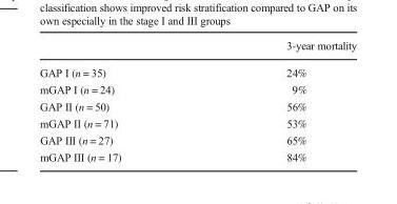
<table><thead><tr><td></td><td>3-year mortality</td></tr></thead><tbody><tr><td>GAP I (n = 35)</td><td>24%</td></tr><tr><td>mGAP I (n = 24)</td><td>9%</td></tr><tr><td>GAP II (n = 50)</td><td>56%</td></tr><tr><td>mGAP II (n = 71)</td><td>53%</td></tr><tr><td>GAP III (n = 27)</td><td>65%</td></tr><tr><td>mGAP III (n = 17)</td><td>84%</td></tr></tbody></table>